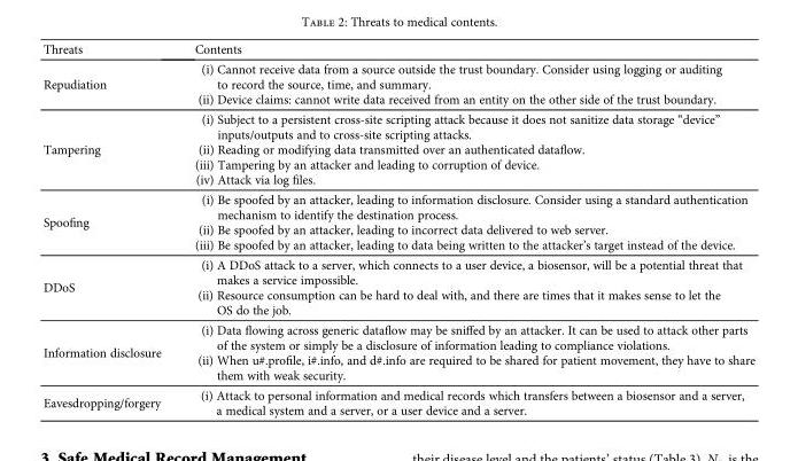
<table><thead><tr><td>Threats</td><td>Contents</td></tr></thead><tbody><tr><td>Repudiation</td><td>(i) Cannot receive data from a source outside the trust boundary. Consider using logging or auditing to record the source, time, and summary. (ii) Device claims: cannot write data received from an entity on the other side of the trust boundary.</td></tr><tr><td>Tampering</td><td>(i) Subject to a persistent cross-site scripting attack because it does not sanitize data storage “device” inputs/outputs and to cross-site scripting attacks. (ii) Reading or modifying data transmitted over an authenticated dataflow. (iii) Tampering by an attacker and leading to corruption of device. (iv) Attack via log files.</td></tr><tr><td>Spoofing</td><td>(i) Be spoofed by an attacker, leading to information disclosure. Consider using a standard authentication mechanism to identify the destination process. (ii) Be spoofed by an attacker, leading to incorrect data delivered to web server. (iii) Be spoofed by an attacker, leading to data being written to the attacker’s target instead of the device.</td></tr><tr><td>DDoS</td><td>(i) A DDoS attack to a server, which connects to a user device, a biosensor, will be a potential threat that makes a service impossible. (ii) Resource consumption can be hard to deal with, and there are times that it makes sense to let the OS do the job.</td></tr><tr><td>Information disclosure</td><td>(i) Data flowing across generic dataflow may be sniffed by an attacker. It can be used to attack other parts of the system or simply be a disclosure of information leading to compliance violations. (ii) When u#.profile, i#.info, and d#.info are required to be shared for patient movement, they have to share them with weak security.</td></tr><tr><td>Eavesdropping/forgery</td><td>(i) Attack to personal information and medical records which transfers between a biosensor and a server, a medical system and a server, or a user device and a server.</td></tr></tbody></table>